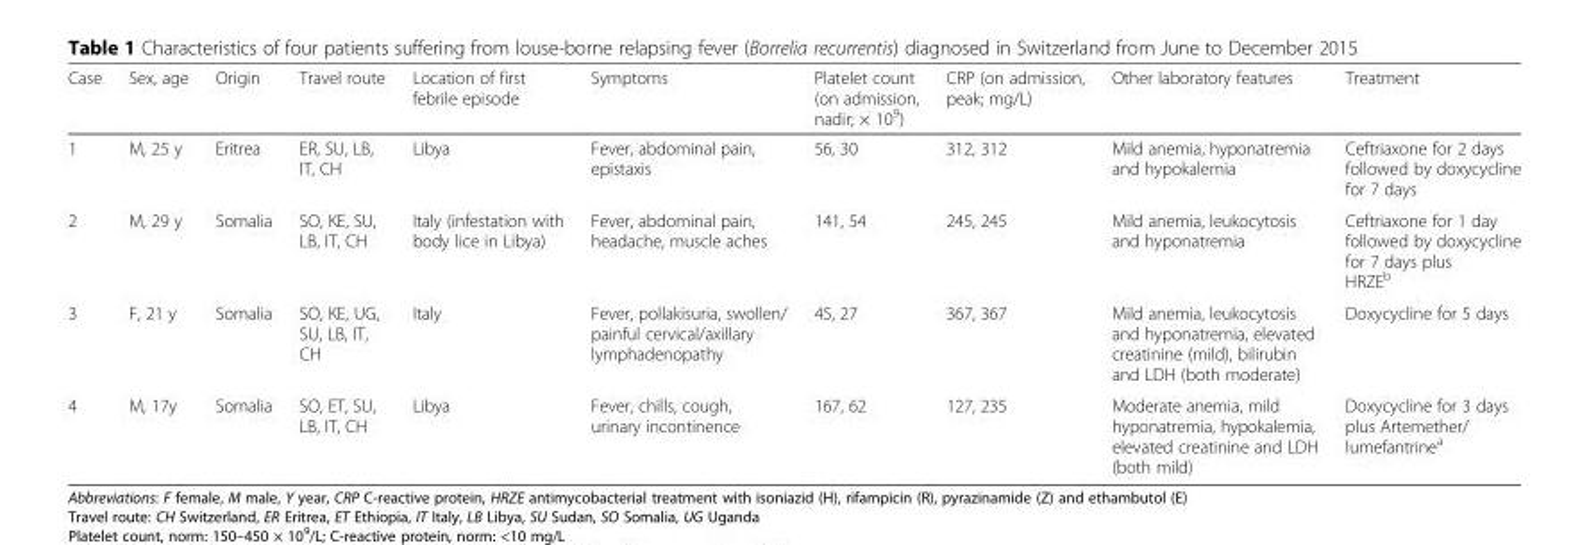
<table><thead><tr><td>Case</td><td>Sex, age</td><td>Origin</td><td>Travel route</td><td>Location of first febrile episode</td><td>Symptoms</td><td>Platelet count (on admission, nadir; × 10<sup>9</sup>)</td><td>CRP (on admission, peak; mg/L)</td><td>Other laboratory features</td><td>Treatment</td></tr></thead><tbody><tr><td>1</td><td>M, 25 y</td><td>Eritrea</td><td>ER, SU, LB, IT, CH</td><td>Libya</td><td>Fever, abdominal pain, epistaxis</td><td>56, 30</td><td>312, 312</td><td>Mild anemia, hyponatremia and hypokalemia</td><td>Ceftriaxone for 2 days followed by doxycycline for 7 days</td></tr><tr><td>2</td><td>M, 29 y</td><td>Somalia</td><td>SO, KE, SU, LB, IT, CH</td><td>Italy (infestation with body lice in Libya)</td><td>Fever, abdominal pain, headache, muscle aches</td><td>141, 54</td><td>245, 245</td><td>Mild anemia, leukocytosis and hyponatremia</td><td>Ceftriaxone for 1 day followed by doxycycline for 7 days plus HRZE<sup>b</sup></td></tr><tr><td>3</td><td>F, 21 y</td><td>Somalia</td><td>SO, KE, UG, SU, LB, IT, CH</td><td>Italy</td><td>Fever, pollakisuria, swollen/ painful cervical/axillary lymphadenopathy</td><td>45, 27</td><td>367, 367</td><td>Mild anemia, leukocytosis and hyponatremia, elevated creatinine (mild), bilirubin and LDH (both moderate)</td><td>Doxycycline for 5 days</td></tr><tr><td>4</td><td>M, 17y</td><td>Somalia</td><td>SO, ET, SU, LB, IT, CH</td><td>Libya</td><td>Fever, chills, cough, urinary incontinence</td><td>167, 62</td><td>127, 235</td><td>Moderate anemia, mild hyponatremia, hypokalemia, elevated creatinine and LDH (both mild)</td><td>Doxycycline for 3 days plus Artemether/ lumefantrine<sup>a</sup></td></tr></tbody></table>